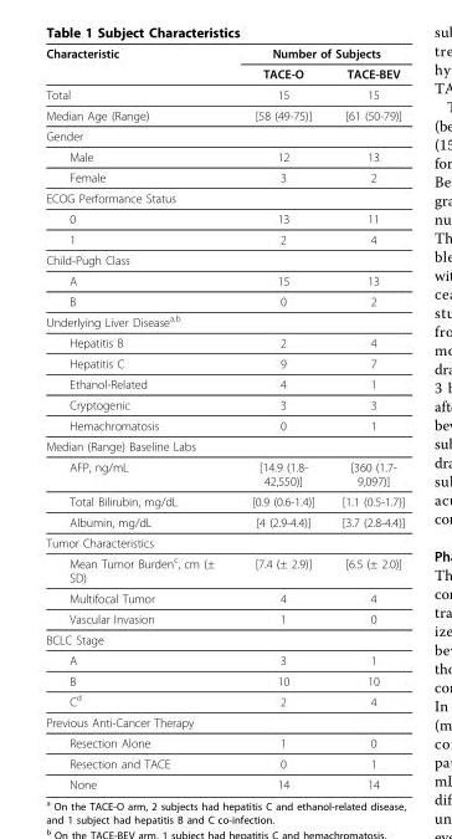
<table><thead><tr><td rowspan="2">Characteristic</td><td colspan="2">Number of Subjects</td></tr><tr><td>TACE-O</td><td>TACE-BEV</td></tr></thead><tbody><tr><td>Total</td><td>15</td><td>15</td></tr><tr><td>Median Age (Range)</td><td>[58 (49-75)]</td><td>[61 (50-79)]</td></tr><tr><td colspan="3">Gender</td></tr><tr><td>Male</td><td>12</td><td>13</td></tr><tr><td>Female</td><td>3</td><td>2</td></tr><tr><td colspan="3">ECOG Performance Status</td></tr><tr><td>0</td><td>13</td><td>11</td></tr><tr><td>1</td><td>2</td><td>4</td></tr><tr><td colspan="3">Child-Pugh Class</td></tr><tr><td>A</td><td>15</td><td>13</td></tr><tr><td>B</td><td>0</td><td>2</td></tr><tr><td colspan="3">Underlying Liver Diseasea,b</td></tr><tr><td>Hepatitis B</td><td>2</td><td>4</td></tr><tr><td>Hepatitis C</td><td>9</td><td>7</td></tr><tr><td>Ethanol-Related</td><td>4</td><td>1</td></tr><tr><td>Cryptogenic</td><td>3</td><td>3</td></tr><tr><td>Hemachromatosis</td><td>0</td><td>1</td></tr><tr><td colspan="3">Median (Range) Baseline Labs</td></tr><tr><td>AFP, ng/mL</td><td>[14.9 (1.8- 42,550)]</td><td>[360 (1.7- 9,097)]</td></tr><tr><td>Total Bilirubin, mg/dL</td><td>[0.9 (0.6-1.4)]</td><td>[1.1 (0.5-1.7)]</td></tr><tr><td>Albumin, mg/dL</td><td>[4 (2.9-4.4)]</td><td>[3.7 (2.8-4.4)]</td></tr><tr><td colspan="3">Tumor Characteristics</td></tr><tr><td>Mean Tumor Burden<sup>c</sup>, cm (± SD)</td><td>[7.4 (± 2.9)]</td><td>[6.5 (± 2.0)]</td></tr><tr><td>Multifocal Tumor</td><td>4</td><td>4</td></tr><tr><td>Vascular Invasion</td><td>1</td><td>0</td></tr><tr><td colspan="3">BCLC Stage</td></tr><tr><td>A</td><td>3</td><td>1</td></tr><tr><td>B</td><td>10</td><td>10</td></tr><tr><td>C<sup>d</sup></td><td>2</td><td>4</td></tr><tr><td colspan="3">Previous Anti-Cancer Therapy</td></tr><tr><td>Resection Alone</td><td>1</td><td>0</td></tr><tr><td>Resection and TACE</td><td>0</td><td>1</td></tr><tr><td>None</td><td>14</td><td>14</td></tr></tbody></table>